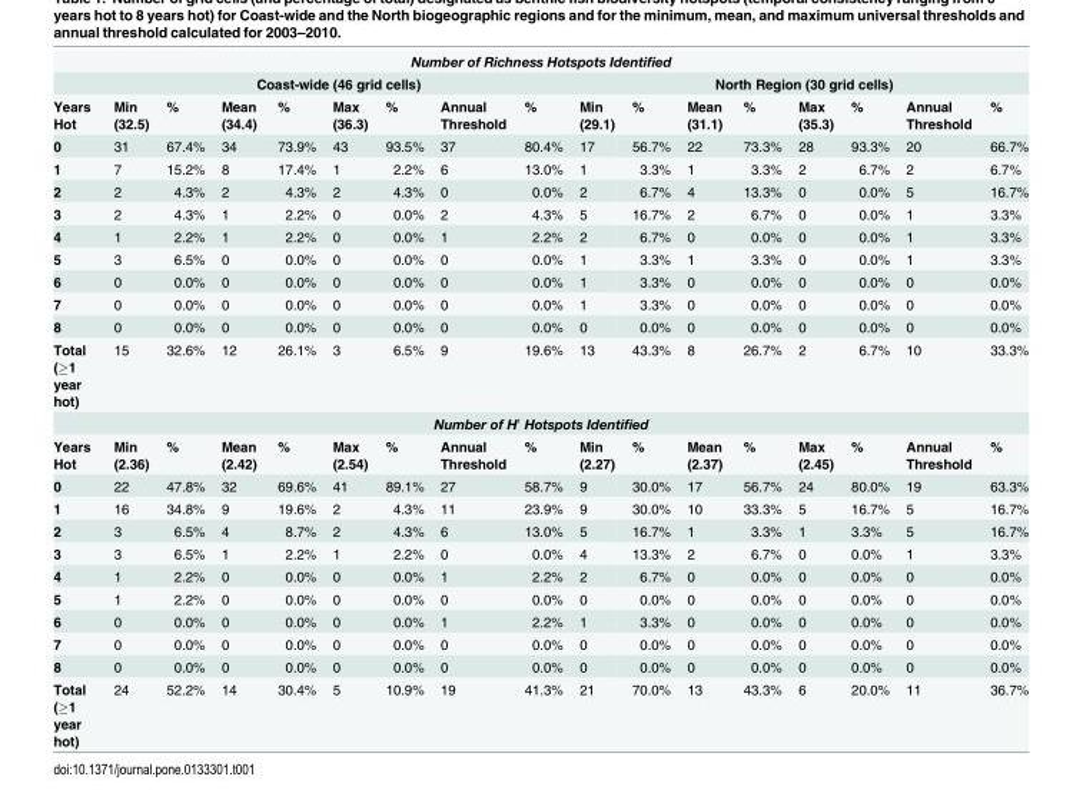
<table><tbody><tr><td colspan="17">Number of Richness Hotspots Identified</td></tr><tr><td></td><td colspan="8">Coast-wide (46 grid cells)</td><td colspan="8">North Region (30 grid cells)</td></tr><tr><td>Years Hot</td><td>Min (32.5)</td><td>%</td><td>Mean (34.4)</td><td>%</td><td>Max (36.3)</td><td>%</td><td>Annual Threshold</td><td>%</td><td>Min (29.1)</td><td>%</td><td>Mean (31.1)</td><td>%</td><td>Max (35.3)</td><td>%</td><td>Annual Threshold</td><td>%</td></tr><tr><td>0</td><td>31</td><td>67.4%</td><td>34</td><td>73.9%</td><td>43</td><td>93.5%</td><td>37</td><td>80.4%</td><td>17</td><td>56.7%</td><td>22</td><td>73.3%</td><td>28</td><td>93.3%</td><td>20</td><td>66.7%</td></tr><tr><td>1</td><td>7</td><td>15.2%</td><td>8</td><td>17.4%</td><td>1</td><td>2.2%</td><td>6</td><td>13.0%</td><td>1</td><td>3.3%</td><td>1</td><td>3.3%</td><td>2</td><td>6.7%</td><td>2</td><td>6.7%</td></tr><tr><td>2</td><td>2</td><td>4.3%</td><td>2</td><td>4.3%</td><td>2</td><td>4.3%</td><td>0</td><td>0.0%</td><td>2</td><td>6.7%</td><td>4</td><td>13.3%</td><td>0</td><td>0.0%</td><td>5</td><td>16.7%</td></tr><tr><td>3</td><td>2</td><td>4.3%</td><td>1</td><td>2.2%</td><td>0</td><td>0.0%</td><td>2</td><td>4.3%</td><td>5</td><td>16.7%</td><td>2</td><td>6.7%</td><td>0</td><td>0.0%</td><td>1</td><td>3.3%</td></tr><tr><td>4</td><td>1</td><td>2.2%</td><td>1</td><td>2.2%</td><td>0</td><td>0.0%</td><td>1</td><td>2.2%</td><td>2</td><td>6.7%</td><td>0</td><td>0.0%</td><td>0</td><td>0.0%</td><td>1</td><td>3.3%</td></tr><tr><td>5</td><td>3</td><td>6.5%</td><td>0</td><td>0.0%</td><td>0</td><td>0.0%</td><td>0</td><td>0.0%</td><td>1</td><td>3.3%</td><td>1</td><td>3.3%</td><td>0</td><td>0.0%</td><td>1</td><td>3.3%</td></tr><tr><td>6</td><td>0</td><td>0.0%</td><td>0</td><td>0.0%</td><td>0</td><td>0.0%</td><td>0</td><td>0.0%</td><td>1</td><td>3.3%</td><td>0</td><td>0.0%</td><td>0</td><td>0.0%</td><td>0</td><td>0.0%</td></tr><tr><td>7</td><td>0</td><td>0.0%</td><td>0</td><td>0.0%</td><td>0</td><td>0.0%</td><td>0</td><td>0.0%</td><td>1</td><td>3.3%</td><td>0</td><td>0.0%</td><td>0</td><td>0.0%</td><td>0</td><td>0.0%</td></tr><tr><td>8</td><td>0</td><td>0.0%</td><td>0</td><td>0.0%</td><td>0</td><td>0.0%</td><td>0</td><td>0.0%</td><td>0</td><td>0.0%</td><td>0</td><td>0.0%</td><td>0</td><td>0.0%</td><td>0</td><td>0.0%</td></tr><tr><td>Total (≥1 year hot)</td><td>15</td><td>32.6%</td><td>12</td><td>26.1%</td><td>3</td><td>6.5%</td><td>9</td><td>19.6%</td><td>13</td><td>43.3%</td><td>8</td><td>26.7%</td><td>2</td><td>6.7%</td><td>10</td><td>33.3%</td></tr><tr><td colspan="17">Number of H′ Hotspots Identified</td></tr><tr><td>Years Hot</td><td>Min (2.36)</td><td>%</td><td>Mean (2.42)</td><td>%</td><td>Max (2.54)</td><td>%</td><td>Annual Threshold</td><td>%</td><td>Min (2.27)</td><td>%</td><td>Mean (2.37)</td><td>%</td><td>Max (2.45)</td><td>%</td><td>Annual Threshold</td><td>%</td></tr><tr><td>0</td><td>22</td><td>47.8%</td><td>32</td><td>69.6%</td><td>41</td><td>89.1%</td><td>27</td><td>58.7%</td><td>9</td><td>30.0%</td><td>17</td><td>56.7%</td><td>24</td><td>80.0%</td><td>19</td><td>63.3%</td></tr><tr><td>1</td><td>16</td><td>34.8%</td><td>9</td><td>19.6%</td><td>2</td><td>4.3%</td><td>11</td><td>23.9%</td><td>9</td><td>30.0%</td><td>10</td><td>33.3%</td><td>5</td><td>16.7%</td><td>5</td><td>16.7%</td></tr><tr><td>2</td><td>3</td><td>6.5%</td><td>4</td><td>8.7%</td><td>2</td><td>4.3%</td><td>6</td><td>13.0%</td><td>5</td><td>16.7%</td><td>1</td><td>3.3%</td><td>1</td><td>3.3%</td><td>5</td><td>16.7%</td></tr><tr><td>3</td><td>3</td><td>6.5%</td><td>1</td><td>2.2%</td><td>1</td><td>2.2%</td><td>0</td><td>0.0%</td><td>4</td><td>13.3%</td><td>2</td><td>6.7%</td><td>0</td><td>0.0%</td><td>1</td><td>3.3%</td></tr><tr><td>4</td><td>1</td><td>2.2%</td><td>0</td><td>0.0%</td><td>0</td><td>0.0%</td><td>1</td><td>2.2%</td><td>2</td><td>6.7%</td><td>0</td><td>0.0%</td><td>0</td><td>0.0%</td><td>0</td><td>0.0%</td></tr><tr><td>5</td><td>1</td><td>2.2%</td><td>0</td><td>0.0%</td><td>0</td><td>0.0%</td><td>0</td><td>0.0%</td><td>0</td><td>0.0%</td><td>0</td><td>0.0%</td><td>0</td><td>0.0%</td><td>0</td><td>0.0%</td></tr><tr><td>6</td><td>0</td><td>0.0%</td><td>0</td><td>0.0%</td><td>0</td><td>0.0%</td><td>1</td><td>2.2%</td><td>1</td><td>3.3%</td><td>0</td><td>0.0%</td><td>0</td><td>0.0%</td><td>0</td><td>0.0%</td></tr><tr><td>7</td><td>0</td><td>0.0%</td><td>0</td><td>0.0%</td><td>0</td><td>0.0%</td><td>0</td><td>0.0%</td><td>0</td><td>0.0%</td><td>0</td><td>0.0%</td><td>0</td><td>0.0%</td><td>0</td><td>0.0%</td></tr><tr><td>8</td><td>0</td><td>0.0%</td><td>0</td><td>0.0%</td><td>0</td><td>0.0%</td><td>0</td><td>0.0%</td><td>0</td><td>0.0%</td><td>0</td><td>0.0%</td><td>0</td><td>0.0%</td><td>0</td><td>0.0%</td></tr><tr><td>Total (≥1 year hot)</td><td>24</td><td>52.2%</td><td>14</td><td>30.4%</td><td>5</td><td>10.9%</td><td>19</td><td>41.3%</td><td>21</td><td>70.0%</td><td>13</td><td>43.3%</td><td>6</td><td>20.0%</td><td>11</td><td>36.7%</td></tr></tbody></table>